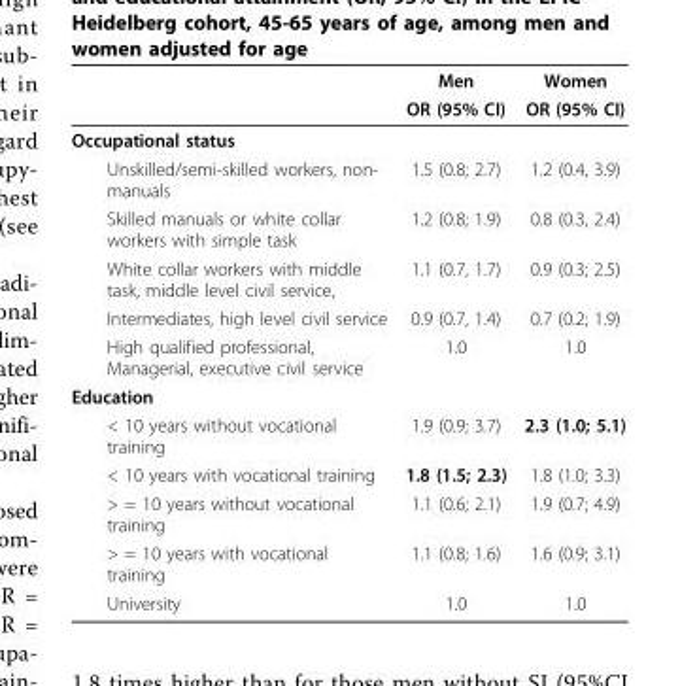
<table><thead><tr><td rowspan="2"></td><td rowspan="2">Men OR (95% CI)</td><td rowspan="2">Women OR (95% CI)</td></tr><tr></tr></thead><tbody><tr><td colspan="3">Occupational status</td></tr><tr><td>Unskilled/semi-skilled workers, non- manuals</td><td>1.5 (0.8; 2.7)</td><td>1.2 (0.4, 3.9)</td></tr><tr><td>Skilled manuals or white collar workers with simple task</td><td>1.2 (0.8; 1.9)</td><td>0.8 (0.3, 2.4)</td></tr><tr><td>White collar workers with middle task, middle level civil service,</td><td>1.1 (0.7, 1.7)</td><td>0.9 (0.3; 2.5)</td></tr><tr><td>Intermediates, high level civil service</td><td>0.9 (0.7, 1.4)</td><td>0.7 (0.2; 1.9)</td></tr><tr><td>High qualified professional, Managerial, executive civil service</td><td>1.0</td><td>1.0</td></tr><tr><td colspan="3">Education</td></tr><tr><td>&lt; 10 years without vocational training</td><td>1.9 (0.9; 3.7)</td><td>2.3 (1.0; 5.1)</td></tr><tr><td>&lt; 10 years with vocational training</td><td>1.8 (1.5; 2.3)</td><td>1.8 (1.0; 3.3)</td></tr><tr><td>&gt; = 10 years without vocational training</td><td>1.1 (0.6; 2.1)</td><td>1.9 (0.7; 4.9)</td></tr><tr><td>&gt; = 10 years with vocational training</td><td>1.1 (0.8; 1.6)</td><td>1.6 (0.9; 3.1)</td></tr><tr><td>University</td><td>1.0</td><td>1.0</td></tr></tbody></table>